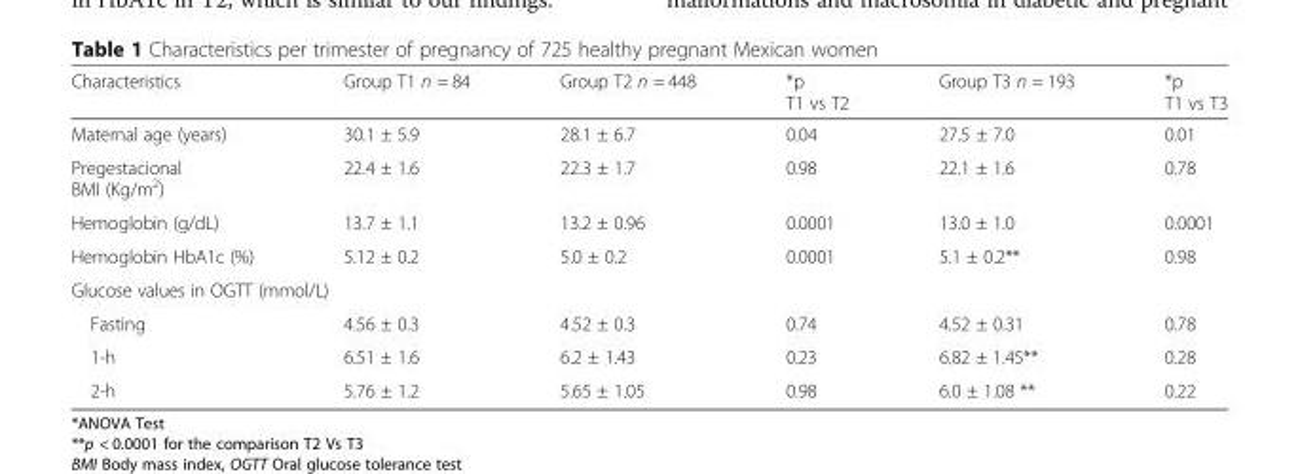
<table><thead><tr><td>Characteristics</td><td>Group T1 n = 84</td><td>Group T2 n = 448</td><td>*p T1 vs T2</td><td>Group T3 n = 193</td><td>*p T1 vs T3</td></tr></thead><tbody><tr><td>Maternal age (years)</td><td>30.1 ± 5.9</td><td>28.1 ± 6.7</td><td>0.04</td><td>27.5 ± 7.0</td><td>0.01</td></tr><tr><td>Pregestacional BMI (Kg/m<sup>2</sup>)</td><td>22.4 ± 1.6</td><td>22.3 ± 1.7</td><td>0.98</td><td>22.1 ± 1.6</td><td>0.78</td></tr><tr><td>Hemoglobin (g/dL)</td><td>13.7 ± 1.1</td><td>13.2 ± 0.96</td><td>0.0001</td><td>13.0 ± 1.0</td><td>0.0001</td></tr><tr><td>Hemoglobin HbA1c (%)</td><td>5.12 ± 0.2</td><td>5.0 ± 0.2</td><td>0.0001</td><td>5.1 ± 0.2**</td><td>0.98</td></tr><tr><td colspan="6">Glucose values in OGTT (mmol/L)</td></tr><tr><td>Fasting</td><td>4.56 ± 0.3</td><td>4.52 ± 0.3</td><td>0.74</td><td>4.52 ± 0.31</td><td>0.78</td></tr><tr><td>1-h</td><td>6.51 ± 1.6</td><td>6.2 ± 1.43</td><td>0.23</td><td>6.82 ± 1.45**</td><td>0.28</td></tr><tr><td>2-h</td><td>5.76 ± 1.2</td><td>5.65 ± 1.05</td><td>0.98</td><td>6.0 ± 1.08 **</td><td>0.22</td></tr></tbody></table>